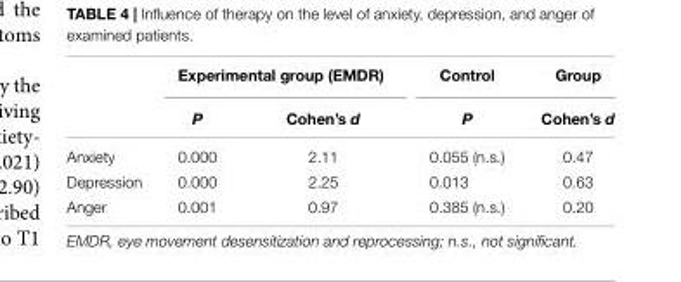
<table><thead><tr><td rowspan="2"></td><td colspan="2">Experimental group (EMDR)</td><td rowspan="2">Control P</td><td rowspan="2">Group Cohen’s d</td></tr><tr><td>P</td><td>Cohen’s d</td></tr></thead><tbody><tr><td>Anxiety</td><td>0.000</td><td>2.11</td><td>0.055 (n.s.)</td><td>0.47</td></tr><tr><td>Depression</td><td>0.000</td><td>2.25</td><td>0.013</td><td>0.63</td></tr><tr><td>Anger</td><td>0.001</td><td>0.97</td><td>0.385 (n.s.)</td><td>0.20</td></tr></tbody></table>